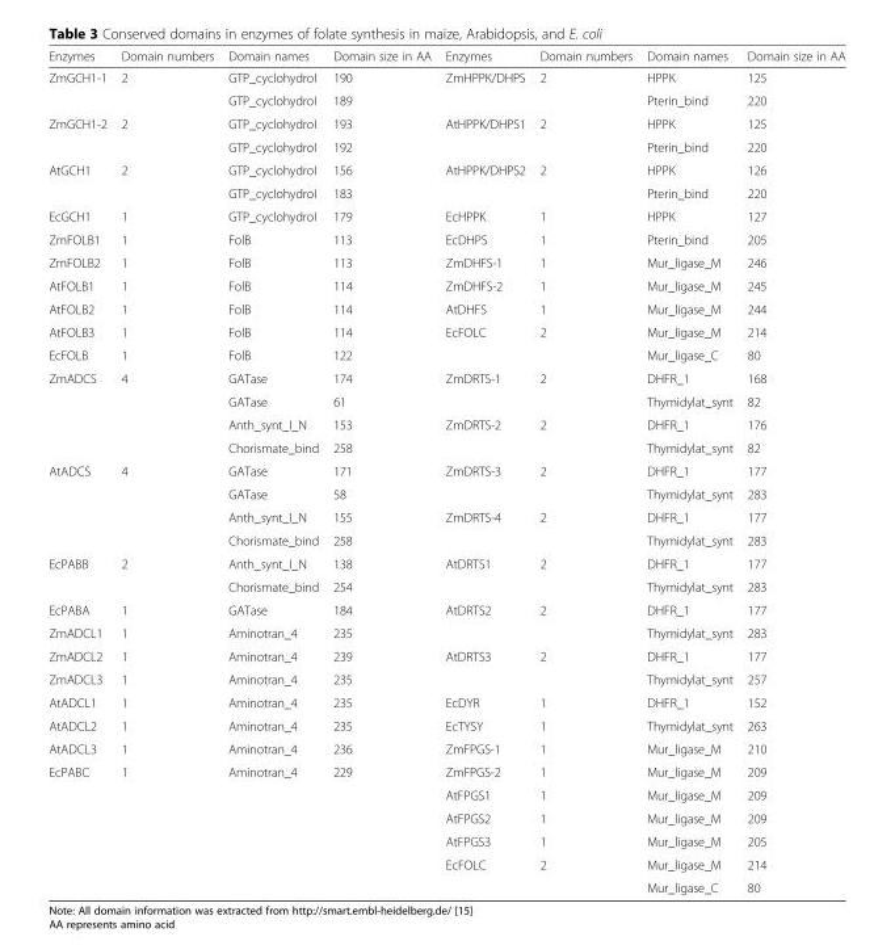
<table><thead><tr><td>Enzymes</td><td>Domain numbers</td><td>Domain names</td><td>Domain size in AA</td><td>Enzymes</td><td>Domain numbers</td><td>Domain names</td><td>Domain size in AA</td></tr></thead><tbody><tr><td rowspan="2">ZmGCH1-1</td><td rowspan="2">2</td><td>GTP_cyclohydroI</td><td>190</td><td rowspan="2">ZmHPPK/DHPS</td><td rowspan="2">2</td><td>HPPK</td><td>125</td></tr><tr><td>GTP_cyclohydroI</td><td>189</td><td>Pterin_bind</td><td>220</td></tr><tr><td rowspan="2">ZmGCH1-2</td><td rowspan="2">2</td><td>GTP_cyclohydroI</td><td>193</td><td rowspan="2">AtHPPK/DHPS1</td><td rowspan="2">2</td><td>HPPK</td><td>125</td></tr><tr><td>GTP_cyclohydroI</td><td>192</td><td>Pterin_bind</td><td>220</td></tr><tr><td rowspan="2">AtGCH1</td><td rowspan="2">2</td><td>GTP_cyclohydroI</td><td>156</td><td rowspan="2">AtHPPK/DHPS2</td><td rowspan="2">2</td><td>HPPK</td><td>126</td></tr><tr><td>GTP_cyclohydroI</td><td>183</td><td>Pterin_bind</td><td>220</td></tr><tr><td>EcGCH1</td><td>1</td><td>GTP_cyclohydroI</td><td>179</td><td>EcHPPK</td><td>1</td><td>HPPK</td><td>127</td></tr><tr><td>ZmFOLB1</td><td>1</td><td>FolB</td><td>113</td><td>EcDHPS</td><td>1</td><td>Pterin_bind</td><td>205</td></tr><tr><td>ZmFOLB2</td><td>1</td><td>FolB</td><td>113</td><td>ZmDHFS-1</td><td>1</td><td>Mur_ligase_M</td><td>246</td></tr><tr><td>AtFOLB1</td><td>1</td><td>FolB</td><td>114</td><td>ZmDHFS-2</td><td>1</td><td>Mur_ligase_M</td><td>245</td></tr><tr><td>AtFOLB2</td><td>1</td><td>FolB</td><td>114</td><td>AtDHFS</td><td>1</td><td>Mur_ligase_M</td><td>244</td></tr><tr><td>AtFOLB3</td><td>1</td><td>FolB</td><td>114</td><td rowspan="2">EcFOLC</td><td rowspan="2">2</td><td>Mur_ligase_M</td><td>214</td></tr><tr><td>EcFOLB</td><td>1</td><td>FolB</td><td>122</td><td>Mur_ligase_C</td><td>80</td></tr><tr><td rowspan="4">ZmADCS</td><td rowspan="4">4</td><td>GATase</td><td>174</td><td rowspan="2">ZmDRTS-1</td><td rowspan="2">2</td><td>DHFR_1</td><td>168</td></tr><tr><td>GATase</td><td>61</td><td>Thymidylat_synt</td><td>82</td></tr><tr><td>Anth_synt_I_N</td><td>153</td><td rowspan="2">ZmDRTS-2</td><td rowspan="2">2</td><td>DHFR_1</td><td>176</td></tr><tr><td>Chorismate_bind</td><td>258</td><td>Thymidylat_synt</td><td>82</td></tr><tr><td rowspan="4">AtADCS</td><td rowspan="4">4</td><td>GATase</td><td>171</td><td rowspan="2">ZmDRTS-3</td><td rowspan="2">2</td><td>DHFR_1</td><td>177</td></tr><tr><td>GATase</td><td>58</td><td>Thymidylat_synt</td><td>283</td></tr><tr><td>Anth_synt_I_N</td><td>155</td><td rowspan="2">ZmDRTS-4</td><td rowspan="2">2</td><td>DHFR_1</td><td>177</td></tr><tr><td>Chorismate_bind</td><td>258</td><td>Thymidylat_synt</td><td>283</td></tr><tr><td rowspan="2">EcPABB</td><td rowspan="2">2</td><td>Anth_synt_I_N</td><td>138</td><td rowspan="2">AtDRTS1</td><td rowspan="2">2</td><td>DHFR_1</td><td>177</td></tr><tr><td>Chorismate_bind</td><td>254</td><td>Thymidylat_synt</td><td>283</td></tr><tr><td>EcPABA</td><td>1</td><td>GATase</td><td>184</td><td rowspan="2">AtDRTS2</td><td rowspan="2">2</td><td>DHFR_1</td><td>177</td></tr><tr><td>ZmADCL1</td><td>1</td><td>Aminotran_4</td><td>235</td><td>Thymidylat_synt</td><td>283</td></tr><tr><td>ZmADCL2</td><td>1</td><td>Aminotran_4</td><td>239</td><td rowspan="2">AtDRTS3</td><td rowspan="2">2</td><td>DHFR_1</td><td>177</td></tr><tr><td>ZmADCL3</td><td>1</td><td>Aminotran_4</td><td>235</td><td>Thymidylat_synt</td><td>257</td></tr><tr><td>AtADCL1</td><td>1</td><td>Aminotran_4</td><td>235</td><td>EcDYR</td><td>1</td><td>DHFR_1</td><td>152</td></tr><tr><td>AtADCL2</td><td>1</td><td>Aminotran_4</td><td>235</td><td>EcTYSY</td><td>1</td><td>Thymidylat_synt</td><td>263</td></tr><tr><td>AtADCL3</td><td>1</td><td>Aminotran_4</td><td>236</td><td>ZmFPGS-1</td><td>1</td><td>Mur_ligase_M</td><td>210</td></tr><tr><td rowspan="6">EcPABC</td><td>1</td><td>Aminotran_4</td><td>229</td><td>ZmFPGS-2</td><td>1</td><td>Mur_ligase_M</td><td>209</td></tr><tr><td></td><td></td><td></td><td>AtFPGS1</td><td>1</td><td>Mur_ligase_M</td><td>209</td></tr><tr><td></td><td></td><td></td><td>AtFPGS2</td><td>1</td><td>Mur_ligase_M</td><td>209</td></tr><tr><td></td><td></td><td></td><td>AtFPGS3</td><td>1</td><td>Mur_ligase_M</td><td>205</td></tr><tr><td></td><td></td><td rowspan="2"></td><td rowspan="2">EcFOLC</td><td rowspan="2">2</td><td>Mur_ligase_M</td><td>214</td></tr><tr><td></td><td></td><td>Mur_ligase_C</td><td>80</td></tr></tbody></table>